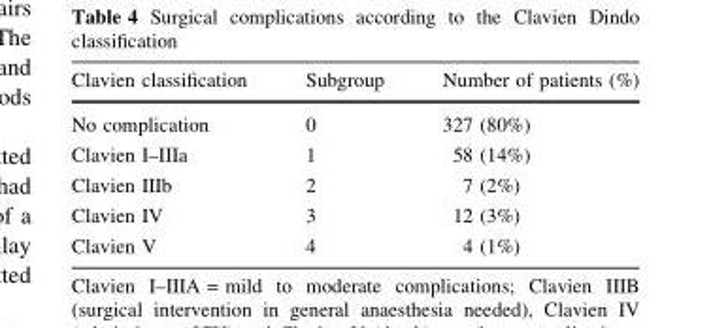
<table><thead><tr><td>Clavien classification</td><td>Subgroup</td><td>Number of patients (%)</td></tr></thead><tbody><tr><td>No complication</td><td>0</td><td>327 (80%)</td></tr><tr><td>Clavien I–IIIa</td><td>1</td><td>58 (14%)</td></tr><tr><td>Clavien IIIb</td><td>2</td><td>7 (2%)</td></tr><tr><td>Clavien IV</td><td>3</td><td>12 (3%)</td></tr><tr><td>Clavien V</td><td>4</td><td>4 (1%)</td></tr></tbody></table>